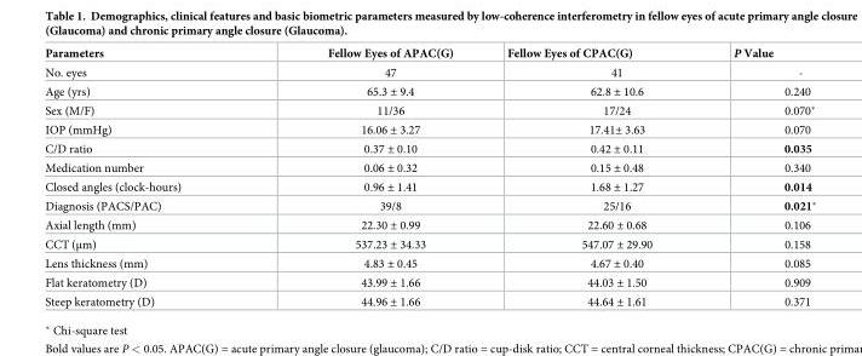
<table><thead><tr><td>Parameters</td><td>Fellow Eyes of APAC(G)</td><td>Fellow Eyes of CPAC(G)</td><td>P Value</td></tr></thead><tbody><tr><td>No. eyes</td><td>47</td><td>41</td><td>-</td></tr><tr><td>Age (yrs)</td><td>65.3 ± 9.4</td><td>62.8 ± 10.6</td><td>0.240</td></tr><tr><td>Sex (M/F)</td><td>11/36</td><td>17/24</td><td>0.070*</td></tr><tr><td>IOP (mmHg)</td><td>16.06 ± 3.27</td><td>17.41± 3.63</td><td>0.070</td></tr><tr><td>C/D ratio</td><td>0.37 ± 0.10</td><td>0.42 ± 0.11</td><td>0.035</td></tr><tr><td>Medication number</td><td>0.06 ± 0.32</td><td>0.15 ± 0.48</td><td>0.340</td></tr><tr><td>Closed angles (clock-hours)</td><td>0.96 ± 1.41</td><td>1.68 ± 1.27</td><td>0.014</td></tr><tr><td>Diagnosis (PACS/PAC)</td><td>39/8</td><td>25/16</td><td>0.021*</td></tr><tr><td>Axial length (mm)</td><td>22.30 ± 0.99</td><td>22.60 ± 0.68</td><td>0.106</td></tr><tr><td>CCT (μm)</td><td>537.23 ± 34.33</td><td>547.07 ± 29.90</td><td>0.158</td></tr><tr><td>Lens thickness (mm)</td><td>4.83 ± 0.45</td><td>4.67 ± 0.40</td><td>0.085</td></tr><tr><td>Flat keratometry (D)</td><td>43.99 ± 1.66</td><td>44.03 ± 1.50</td><td>0.909</td></tr><tr><td>Steep keratometry (D)</td><td>44.96 ± 1.66</td><td>44.64 ± 1.61</td><td>0.371</td></tr></tbody></table>